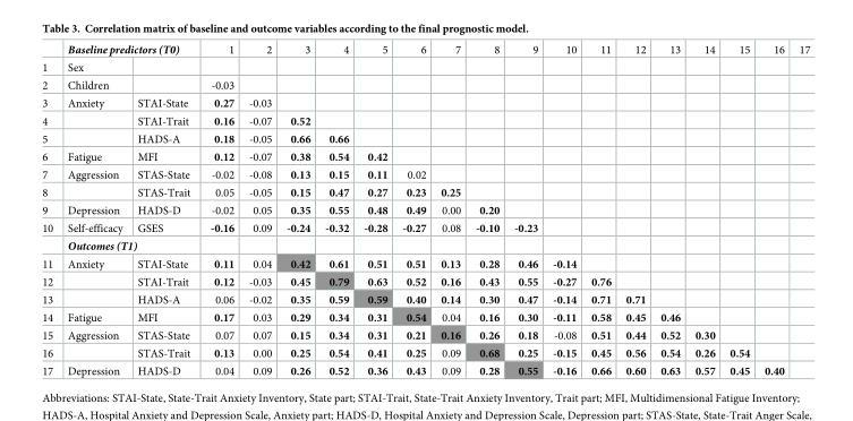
<table><thead><tr><td rowspan="2">1</td><td colspan="2">Baseline predictors (T0)</td><td rowspan="2">1</td><td rowspan="2">2</td><td rowspan="2">3</td><td rowspan="2">4</td><td rowspan="2">5</td><td rowspan="2">6</td><td rowspan="2">7</td><td rowspan="2">8</td><td rowspan="2">9</td><td rowspan="2">10</td><td rowspan="2">11</td><td rowspan="2">12</td><td rowspan="2">13</td><td rowspan="2">14</td><td rowspan="2">15</td><td rowspan="2">16</td><td rowspan="2">17</td></tr><tr><td>Sex</td><td></td></tr></thead><tbody><tr><td>2</td><td>Children</td><td></td><td>-0.03</td><td></td><td></td><td></td><td></td><td></td><td></td><td></td><td></td><td></td><td></td><td></td><td></td><td></td><td></td><td></td><td></td></tr><tr><td>3</td><td>Anxiety</td><td>STAI-State</td><td>0.27</td><td>-0.03</td><td></td><td></td><td></td><td></td><td></td><td></td><td></td><td></td><td></td><td></td><td></td><td></td><td></td><td></td><td></td></tr><tr><td>4</td><td></td><td>STAI-Trait</td><td>0.16</td><td>-0.07</td><td>0.52</td><td></td><td></td><td></td><td></td><td></td><td></td><td></td><td></td><td></td><td></td><td></td><td></td><td></td><td></td></tr><tr><td>5</td><td></td><td>HADS-A</td><td>0.18</td><td>-0.05</td><td>0.66</td><td>0.66</td><td></td><td></td><td></td><td></td><td></td><td></td><td></td><td></td><td></td><td></td><td></td><td></td><td></td></tr><tr><td>6</td><td>Fatigue</td><td>MFI</td><td>0.12</td><td>-0.07</td><td>0.38</td><td>0.54</td><td>0.42</td><td></td><td></td><td></td><td></td><td></td><td></td><td></td><td></td><td></td><td></td><td></td><td></td></tr><tr><td>7</td><td>Aggression</td><td>STAS-State</td><td>-0.02</td><td>-0.08</td><td>0.13</td><td>0.15</td><td>0.11</td><td>0.02</td><td></td><td></td><td></td><td></td><td></td><td></td><td></td><td></td><td></td><td></td><td></td></tr><tr><td>8</td><td></td><td>STAS-Trait</td><td>0.05</td><td>-0.05</td><td>0.15</td><td>0.47</td><td>0.27</td><td>0.23</td><td>0.25</td><td></td><td></td><td></td><td></td><td></td><td></td><td></td><td></td><td></td><td></td></tr><tr><td>9</td><td>Depression</td><td>HADS-D</td><td>-0.02</td><td>0.05</td><td>0.35</td><td>0.55</td><td>0.48</td><td>0.49</td><td>0.00</td><td>0.20</td><td></td><td></td><td></td><td></td><td></td><td></td><td></td><td></td><td></td></tr><tr><td rowspan="2">10</td><td>Self-efficacy</td><td>GSES</td><td>-0.16</td><td>0.09</td><td>-0.24</td><td>-0.32</td><td>-0.28</td><td>-0.27</td><td>0.08</td><td>-0.10</td><td>-0.23</td><td></td><td></td><td></td><td></td><td></td><td></td><td></td><td></td></tr><tr><td colspan="2">Outcomes (T1)</td><td></td><td></td><td></td><td></td><td></td><td></td><td></td><td></td><td></td><td></td><td></td><td></td><td></td><td></td><td></td><td></td><td></td></tr><tr><td>11</td><td>Anxiety</td><td>STAI-State</td><td>0.11</td><td>0.04</td><td>0.42</td><td>0.61</td><td>0.51</td><td>0.51</td><td>0.13</td><td>0.28</td><td>0.46</td><td>-0.14</td><td></td><td></td><td></td><td></td><td></td><td></td><td></td></tr><tr><td>12</td><td></td><td>STAI-Trait</td><td>0.12</td><td>-0.03</td><td>0.45</td><td>0.79</td><td>0.63</td><td>0.52</td><td>0.16</td><td>0.43</td><td>0.55</td><td>-0.27</td><td>0.76</td><td></td><td></td><td></td><td></td><td></td><td></td></tr><tr><td>13</td><td></td><td>HADS-A</td><td>0.06</td><td>-0.02</td><td>0.35</td><td>0.59</td><td>0.59</td><td>0.40</td><td>0.14</td><td>0.30</td><td>0.47</td><td>-0.14</td><td>0.71</td><td>0.71</td><td></td><td></td><td></td><td></td><td></td></tr><tr><td>14</td><td>Fatigue</td><td>MFI</td><td>0.17</td><td>0.03</td><td>0.29</td><td>0.34</td><td>0.31</td><td>0.54</td><td>0.04</td><td>0.16</td><td>0.30</td><td>-0.11</td><td>0.58</td><td>0.45</td><td>0.46</td><td></td><td></td><td></td><td></td></tr><tr><td>15</td><td>Aggression</td><td>STAS-State</td><td>0.07</td><td>0.07</td><td>0.15</td><td>0.34</td><td>0.31</td><td>0.21</td><td>0.16</td><td>0.26</td><td>0.18</td><td>-0.08</td><td>0.51</td><td>0.44</td><td>0.52</td><td>0.30</td><td></td><td></td><td></td></tr><tr><td>16</td><td></td><td>STAS-Trait</td><td>0.13</td><td>0.00</td><td>0.25</td><td>0.54</td><td>0.41</td><td>0.25</td><td>0.09</td><td>0.68</td><td>0.25</td><td>-0.15</td><td>0.45</td><td>0.56</td><td>0.54</td><td>0.26</td><td>0.54</td><td></td><td></td></tr><tr><td>17</td><td>Depression</td><td>HADS-D</td><td>0.04</td><td>0.09</td><td>0.26</td><td>0.52</td><td>0.36</td><td>0.43</td><td>0.09</td><td>0.28</td><td>0.55</td><td>-0.16</td><td>0.66</td><td>0.60</td><td>0.63</td><td>0.57</td><td>0.45</td><td>0.40</td><td></td></tr></tbody></table>